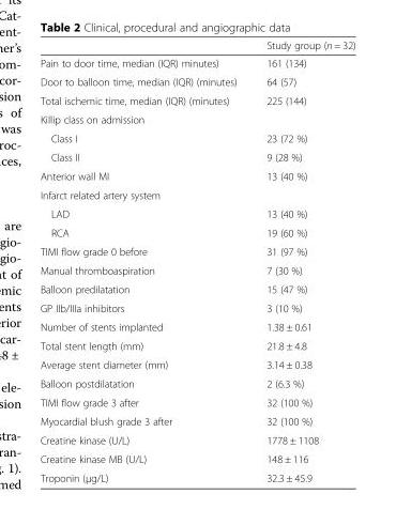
<table><thead><tr><td></td><td>Study group (n = 32)</td></tr></thead><tbody><tr><td>Pain to door time, median (IQR) minutes)</td><td>161 (134)</td></tr><tr><td>Door to balloon time, median (IQR) (minutes)</td><td>64 (57)</td></tr><tr><td>Total ischemic time, median (IQR) (minutes)</td><td>225 (144)</td></tr><tr><td colspan="2">Killip class on admission</td></tr><tr><td>Class I</td><td>23 (72 %)</td></tr><tr><td>Class II</td><td>9 (28 %)</td></tr><tr><td>Anterior wall MI</td><td>13 (40 %)</td></tr><tr><td colspan="2">Infarct related artery system</td></tr><tr><td>LAD</td><td>13 (40 %)</td></tr><tr><td>RCA</td><td>19 (60 %)</td></tr><tr><td>TIMI flow grade 0 before</td><td>31 (97 %)</td></tr><tr><td>Manual thromboaspiration</td><td>7 (30 %)</td></tr><tr><td>Balloon predilatation</td><td>15 (47 %)</td></tr><tr><td>GP IIb/IIIa inhibitors</td><td>3 (10 %)</td></tr><tr><td>Number of stents implanted</td><td>1.38 ± 0.61</td></tr><tr><td>Total stent length (mm)</td><td>21.8 ± 4.8</td></tr><tr><td>Average stent diameter (mm)</td><td>3.14 ± 0.38</td></tr><tr><td>Balloon postdilatation</td><td>2 (6.3 %)</td></tr><tr><td>TIMI flow grade 3 after</td><td>32 (100 %)</td></tr><tr><td>Myocardial blush grade 3 after</td><td>32 (100 %)</td></tr><tr><td>Creatine kinase (U/L)</td><td>1778 ± 1108</td></tr><tr><td>Creatine kinase MB (U/L)</td><td>148 ± 116</td></tr><tr><td>Troponin (μg/L)</td><td>32.3 ± 45.9</td></tr></tbody></table>